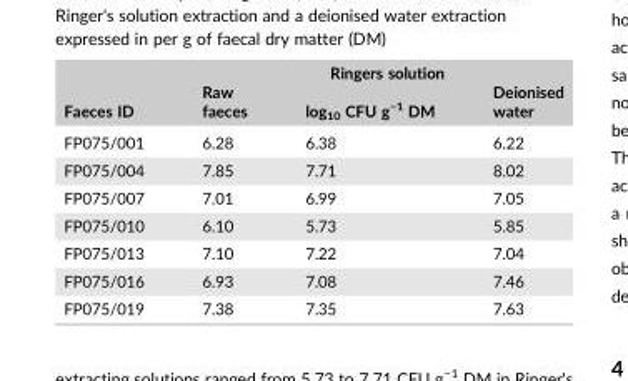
<table><thead><tr><td rowspan="2">Faeces ID</td><td colspan="3">Ringers solution</td></tr><tr><td>Raw faeces</td><td>log<sub>10</sub> CFU g<sup>−1</sup> DM</td><td>Deionised water</td></tr></thead><tbody><tr><td>FP075/001</td><td>6.28</td><td>6.38</td><td>6.22</td></tr><tr><td>FP075/004</td><td>7.85</td><td>7.71</td><td>8.02</td></tr><tr><td>FP075/007</td><td>7.01</td><td>6.99</td><td>7.05</td></tr><tr><td>FP075/010</td><td>6.10</td><td>5.73</td><td>5.85</td></tr><tr><td>FP075/013</td><td>7.10</td><td>7.22</td><td>7.04</td></tr><tr><td>FP075/016</td><td>6.93</td><td>7.08</td><td>7.46</td></tr><tr><td>FP075/019</td><td>7.38</td><td>7.35</td><td>7.63</td></tr></tbody></table>